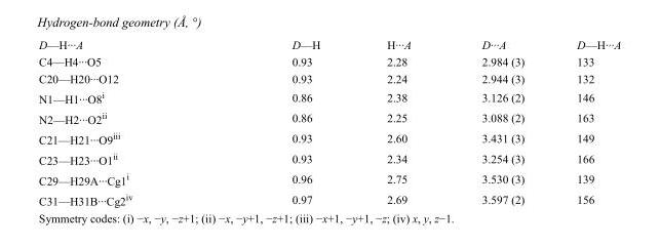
<table><tbody><tr><td>D—H···A</td><td>D—H</td><td>H···A</td><td>D···A</td><td>D—H···A</td></tr><tr><td>C4—H4···O5</td><td>0.93</td><td>2.28</td><td>2.984 (3)</td><td>133</td></tr><tr><td>C20—H20···O12</td><td>0.93</td><td>2.24</td><td>2.944 (3)</td><td>132</td></tr><tr><td>N1—H1···O8<sup>i</sup></td><td>0.86</td><td>2.38</td><td>3.126 (2)</td><td>146</td></tr><tr><td>N2—H2···O2<sup>ii</sup></td><td>0.86</td><td>2.25</td><td>3.088 (2)</td><td>163</td></tr><tr><td>C21—H21···O9<sup>iii</sup></td><td>0.93</td><td>2.60</td><td>3.431 (3)</td><td>149</td></tr><tr><td>C23—H23···O1<sup>ii</sup></td><td>0.93</td><td>2.34</td><td>3.254 (3)</td><td>166</td></tr><tr><td>C29—H29A···Cg1<sup>i</sup></td><td>0.96</td><td>2.75</td><td>3.530 (3)</td><td>139</td></tr><tr><td>C31—H31B···Cg2<sup>iv</sup></td><td>0.97</td><td>2.69</td><td>3.597 (2)</td><td>156</td></tr></tbody></table>